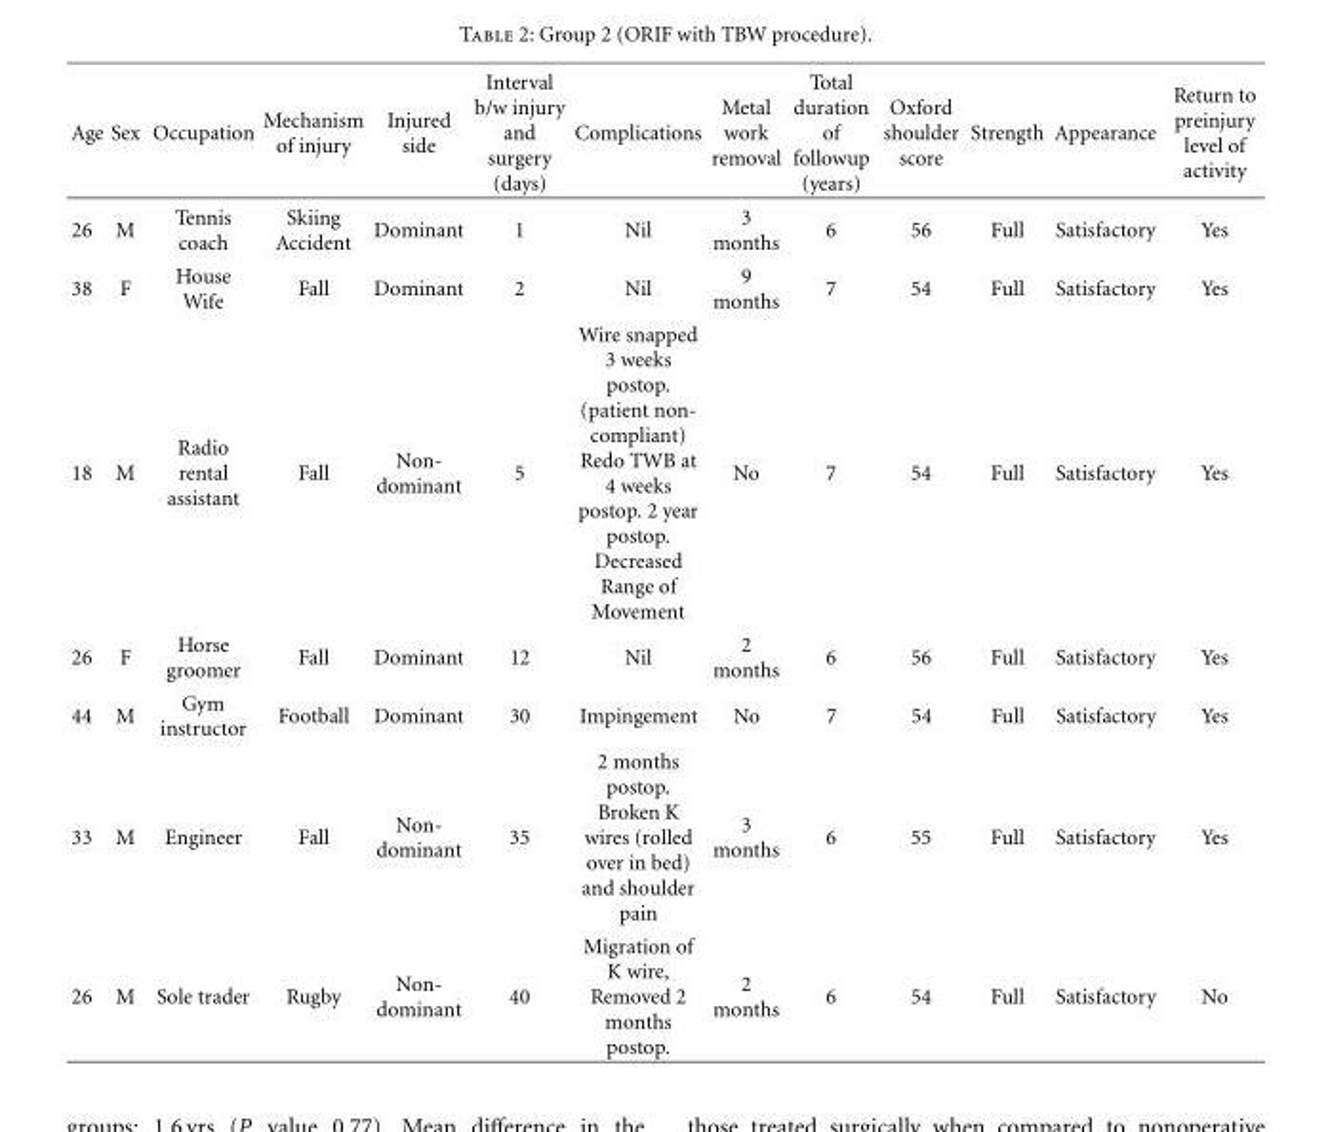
<table><thead><tr><td>Age</td><td>Sex</td><td>Occupation</td><td>Mechanism of injury</td><td>Injured side</td><td>Interval b/w injury and surgery (days)</td><td>Complications</td><td>Metal work removal</td><td>Total duration of followup (years)</td><td>Oxford shoulder score</td><td>Strength</td><td>Appearance</td><td>Return to preinjury level of activity</td></tr></thead><tbody><tr><td>26</td><td>M</td><td>Tennis coach</td><td>Skiing Accident</td><td>Dominant</td><td>1</td><td>Nil</td><td>3 months</td><td>6</td><td>56</td><td>Full</td><td>Satisfactory</td><td>Yes</td></tr><tr><td>38</td><td>F</td><td>House Wife</td><td>Fall</td><td>Dominant</td><td>2</td><td>Nil</td><td>9 months</td><td>7</td><td>54</td><td>Full</td><td>Satisfactory</td><td>Yes</td></tr><tr><td>18</td><td>M</td><td>Radio rental assistant</td><td>Fall</td><td>Non- dominant</td><td>5</td><td>Wire snapped 3 weeks postop. (patient non- compliant) Redo TWB at 4 weeks postop. 2 year postop. Decreased Range of Movement</td><td>No</td><td>7</td><td>54</td><td>Full</td><td>Satisfactory</td><td>Yes</td></tr><tr><td>26</td><td>F</td><td>Horse groomer</td><td>Fall</td><td>Dominant</td><td>12</td><td>Nil</td><td>2 months</td><td>6</td><td>56</td><td>Full</td><td>Satisfactory</td><td>Yes</td></tr><tr><td>44</td><td>M</td><td>Gym instructor</td><td>Football</td><td>Dominant</td><td>30</td><td>Impingement</td><td>No</td><td>7</td><td>54</td><td>Full</td><td>Satisfactory</td><td>Yes</td></tr><tr><td>33</td><td>M</td><td>Engineer</td><td>Fall</td><td>Non- dominant</td><td>35</td><td>2 months postop. Broken K wires (rolled over in bed) and shoulder pain</td><td>3 months</td><td>6</td><td>55</td><td>Full</td><td>Satisfactory</td><td>Yes</td></tr><tr><td>26</td><td>M</td><td>Sole trader</td><td>Rugby</td><td>Non- dominant</td><td>40</td><td>Migration of K wire, Removed 2 months postop.</td><td>2 months</td><td>6</td><td>54</td><td>Full</td><td>Satisfactory</td><td>No</td></tr></tbody></table>